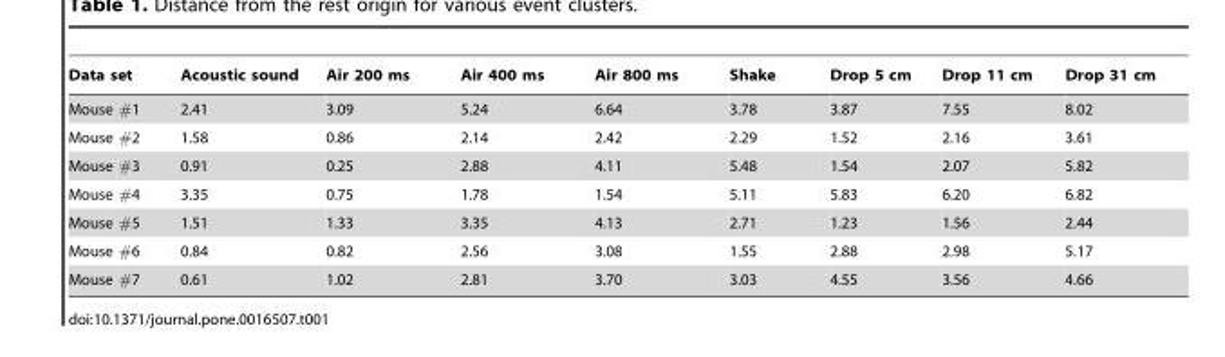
<table><thead><tr><td>Data set</td><td>Acoustic sound</td><td>Air 200 ms</td><td>Air 400 ms</td><td>Air 800 ms</td><td>Shake</td><td>Drop 5 cm</td><td>Drop 11 cm</td><td>Drop 31 cm</td></tr></thead><tbody><tr><td>Mouse #1</td><td>2.41</td><td>3.09</td><td>5.24</td><td>6.64</td><td>3.78</td><td>3.87</td><td>7.55</td><td>8.02</td></tr><tr><td>Mouse #2</td><td>1.58</td><td>0.86</td><td>2.14</td><td>2.42</td><td>2.29</td><td>1.52</td><td>2.16</td><td>3.61</td></tr><tr><td>Mouse #3</td><td>0.91</td><td>0.25</td><td>2.88</td><td>4.11</td><td>5.48</td><td>1.54</td><td>2.07</td><td>5.82</td></tr><tr><td>Mouse #4</td><td>3.35</td><td>0.75</td><td>1.78</td><td>1.54</td><td>5.11</td><td>5.83</td><td>6.20</td><td>6.82</td></tr><tr><td>Mouse #5</td><td>1.51</td><td>1.33</td><td>3.35</td><td>4.13</td><td>2.71</td><td>1.23</td><td>1.56</td><td>2.44</td></tr><tr><td>Mouse #6</td><td>0.84</td><td>0.82</td><td>2.56</td><td>3.08</td><td>1.55</td><td>2.88</td><td>2.98</td><td>5.17</td></tr><tr><td>Mouse #7</td><td>0.61</td><td>1.02</td><td>2.81</td><td>3.70</td><td>3.03</td><td>4.55</td><td>3.56</td><td>4.66</td></tr></tbody></table>